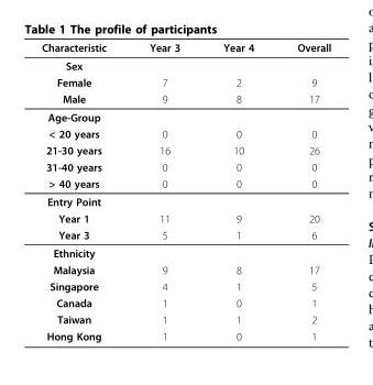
<table><thead><tr><td>Characteristic</td><td>Year 3</td><td>Year 4</td><td>Overall</td></tr></thead><tbody><tr><td colspan="4">Sex</td></tr><tr><td>Female</td><td>7</td><td>2</td><td>9</td></tr><tr><td>Male</td><td>9</td><td>8</td><td>17</td></tr><tr><td colspan="4">Age-Group</td></tr><tr><td>&lt; 20 years</td><td>0</td><td>0</td><td>0</td></tr><tr><td>21-30 years</td><td>16</td><td>10</td><td>26</td></tr><tr><td>31-40 years</td><td>0</td><td>0</td><td>0</td></tr><tr><td>&gt; 40 years</td><td>0</td><td>0</td><td>0</td></tr><tr><td colspan="4">Entry Point</td></tr><tr><td>Year 1</td><td>11</td><td>9</td><td>20</td></tr><tr><td>Year 3</td><td>5</td><td>1</td><td>6</td></tr><tr><td colspan="4">Ethnicity</td></tr><tr><td>Malaysia</td><td>9</td><td>8</td><td>17</td></tr><tr><td>Singapore</td><td>4</td><td>1</td><td>5</td></tr><tr><td>Canada</td><td>1</td><td>0</td><td>1</td></tr><tr><td>Taiwan</td><td>1</td><td>1</td><td>2</td></tr><tr><td>Hong Kong</td><td>1</td><td>0</td><td>1</td></tr></tbody></table>